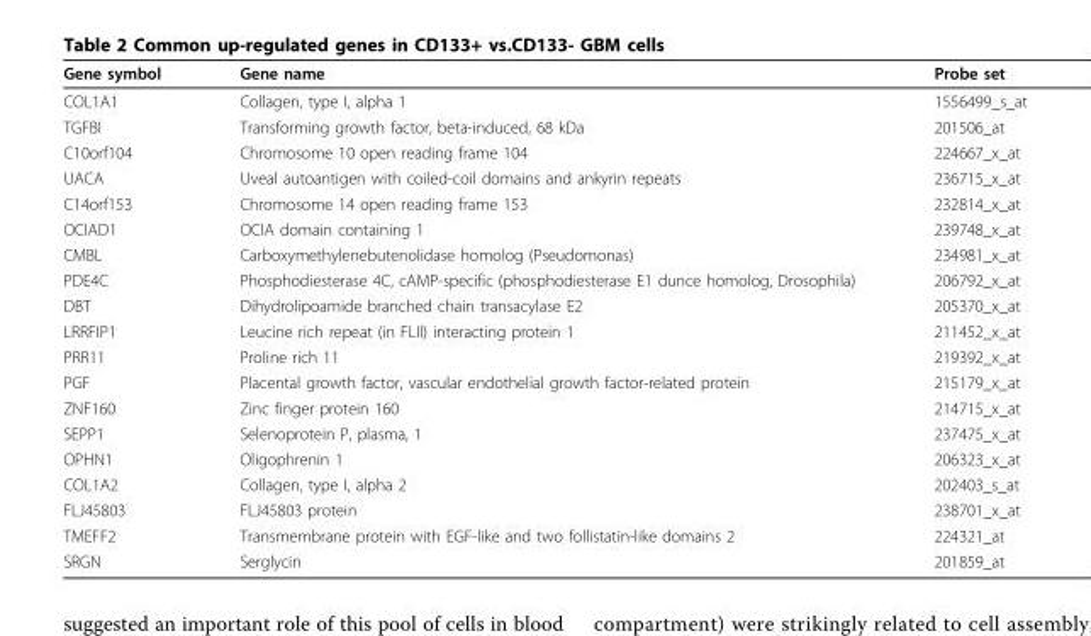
<table><thead><tr><td>Gene symbol</td><td>Gene name</td><td>Probe set</td></tr></thead><tbody><tr><td>COL1A1</td><td>Collagen, type I, alpha 1</td><td>1556499_s_at</td></tr><tr><td>TGFBI</td><td>Transforming growth factor, beta-induced, 68 kDa</td><td>201506_at</td></tr><tr><td>C10orf104</td><td>Chromosome 10 open reading frame 104</td><td>224667_x_at</td></tr><tr><td>UACA</td><td>Uveal autoantigen with coiled-coil domains and ankyrin repeats</td><td>236715_x_at</td></tr><tr><td>C14orf153</td><td>Chromosome 14 open reading frame 153</td><td>232814_x_at</td></tr><tr><td>OCIAD1</td><td>OCIA domain containing 1</td><td>239748_x_at</td></tr><tr><td>CMBL</td><td>Carboxymethylenebutenolidase homolog (Pseudomonas)</td><td>234981_x_at</td></tr><tr><td>PDE4C</td><td>Phosphodiesterase 4C, cAMP-specific (phosphodiesterase E1 dunce homolog, Drosophila)</td><td>206792_x_at</td></tr><tr><td>DBT</td><td>Dihydrolipoamide branched chain transacylase E2</td><td>205370_x_at</td></tr><tr><td>LRRFIP1</td><td>Leucine rich repeat (in FLII) interacting protein 1</td><td>211452_x_at</td></tr><tr><td>PRR11</td><td>Proline rich 11</td><td>219392_x_at</td></tr><tr><td>PGF</td><td>Placental growth factor, vascular endothelial growth factor-related protein</td><td>215179_x_at</td></tr><tr><td>ZNF160</td><td>Zinc finger protein 160</td><td>214715_x_at</td></tr><tr><td>SEPP1</td><td>Selenoprotein P, plasma, 1</td><td>237475_x_at</td></tr><tr><td>OPHN1</td><td>Oligophrenin 1</td><td>206323_x_at</td></tr><tr><td>COL1A2</td><td>Collagen, type I, alpha 2</td><td>202403_s_at</td></tr><tr><td>FLJ45803</td><td>FLJ45803 protein</td><td>238701_x_at</td></tr><tr><td>TMEFF2</td><td>Transmembrane protein with EGF-like and two follistatin-like domains 2</td><td>224321_at</td></tr><tr><td>SRGN</td><td>Serglycin</td><td>201859_at</td></tr></tbody></table>